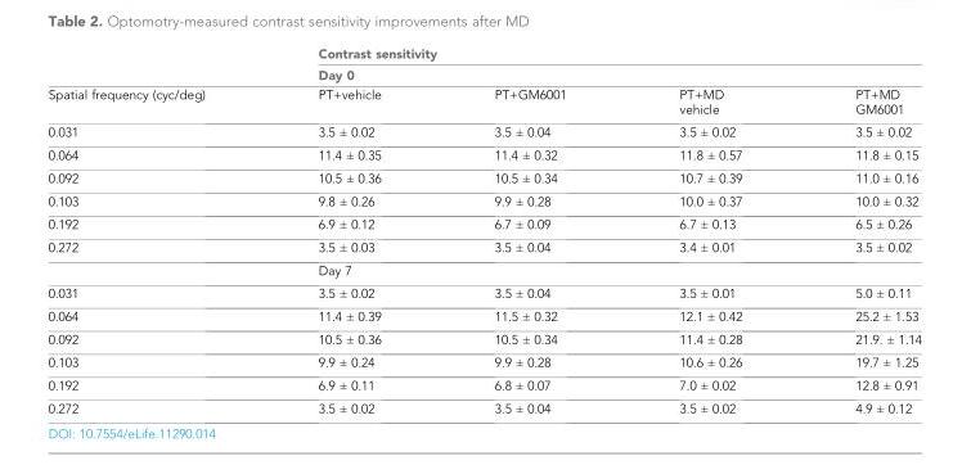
<table><thead><tr><td rowspan="3">Spatial frequency (cyc/deg)</td><td rowspan="2" colspan="4">Contrast sensitivity Day 0</td></tr><tr></tr><tr><td>PT+vehicle</td><td>PT+GM6001</td><td>PT+MD vehicle</td><td>PT+MD GM6001</td></tr></thead><tbody><tr><td>0.031</td><td>3.5 ± 0.02</td><td>3.5 ± 0.04</td><td>3.5 ± 0.02</td><td>3.5 ± 0.02</td></tr><tr><td>0.064</td><td>11.4 ± 0.35</td><td>11.4 ± 0.32</td><td>11.8 ± 0.57</td><td>11.8 ± 0.15</td></tr><tr><td>0.092</td><td>10.5 ± 0.36</td><td>10.5 ± 0.34</td><td>10.7 ± 0.39</td><td>11.0 ± 0.16</td></tr><tr><td>0.103</td><td>9.8 ± 0.26</td><td>9.9 ± 0.28</td><td>10.0 ± 0.37</td><td>10.0 ± 0.32</td></tr><tr><td>0.192</td><td>6.9 ± 0.12</td><td>6.7 ± 0.09</td><td>6.7 ± 0.13</td><td>6.5 ± 0.26</td></tr><tr><td rowspan="2">0.272</td><td>3.5 ± 0.03</td><td>3.5 ± 0.04</td><td>3.4 ± 0.01</td><td>3.5 ± 0.02</td></tr><tr><td colspan="4">Day 7</td></tr><tr><td>0.031</td><td>3.5 ± 0.02</td><td>3.5 ± 0.04</td><td>3.5 ± 0.01</td><td>5.0 ± 0.11</td></tr><tr><td>0.064</td><td>11.4 ± 0.39</td><td>11.5 ± 0.32</td><td>12.1 ± 0.42</td><td>25.2 ± 1.53</td></tr><tr><td>0.092</td><td>10.5 ± 0.36</td><td>10.5 ± 0.34</td><td>11.4 ± 0.28</td><td>21.9. ± 1.14</td></tr><tr><td>0.103</td><td>9.9 ± 0.24</td><td>9.9 ± 0.28</td><td>10.6 ± 0.26</td><td>19.7 ± 1.25</td></tr><tr><td>0.192</td><td>6.9 ± 0.11</td><td>6.8 ± 0.07</td><td>7.0 ± 0.02</td><td>12.8 ± 0.91</td></tr><tr><td>0.272</td><td>3.5 ± 0.02</td><td>3.5 ± 0.04</td><td>3.5 ± 0.02</td><td>4.9 ± 0.12</td></tr></tbody></table>